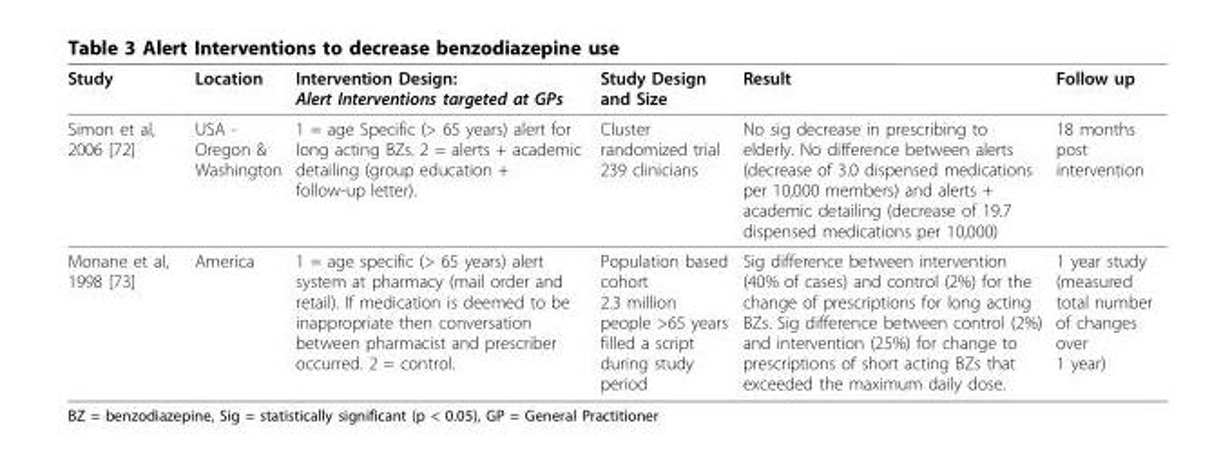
<table><thead><tr><td>Study</td><td>Location</td><td>Intervention Design: Alert Interventions targeted at GPs</td><td>Study Design and Size</td><td>Result</td><td>Follow up</td></tr></thead><tbody><tr><td>Simon et al, 2006 [72]</td><td>USA - Oregon &amp; Washington</td><td>1 = age Specific (&gt; 65 years) alert for long acting BZs. 2 = alerts + academic detailing (group education + follow-up letter).</td><td>Cluster randomized trial 239 clinicians</td><td>No sig decrease in prescribing to elderly. No difference between alerts (decrease of 3.0 dispensed medications per 10,000 members) and alerts + academic detailing (decrease of 19.7 dispensed medications per 10,000)</td><td>18 months post intervention</td></tr><tr><td>Monane et al, 1998 [73]</td><td>America</td><td>1 = age specific (&gt; 65 years) alert system at pharmacy (mail order and retail). If medication is deemed to be inappropriate then conversation between pharmacist and prescriber occurred. 2 = control.</td><td>Population based cohort 2.3 million people &gt;65 years filled a script during study period</td><td>Sig difference between intervention (40% of cases) and control (2%) for the change of prescriptions for long acting BZs. Sig difference between control (2%) and intervention (25%) for change to prescriptions of short acting BZs that exceeded the maximum daily dose.</td><td>1 year study (measured total number of changes over 1 year)</td></tr></tbody></table>